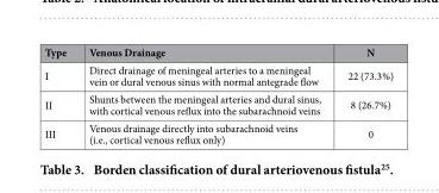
<table><thead><tr><td>Type</td><td>Venous Drainage</td><td>N</td></tr></thead><tbody><tr><td>I</td><td>Direct drainage of meningeal arteries to a meningeal vein or dural venous sinus with normal antegrade flow</td><td>22 (73.3%)</td></tr><tr><td>II</td><td>Shunts between the meningeal arteries and dural sinus, with cortical venous reflux into the subarachnoid veins</td><td>8 (26.7%)</td></tr><tr><td>III</td><td>Venous drainage directly into subarachnoid veins (i.e., cortical venous reflux only)</td><td>0</td></tr></tbody></table>